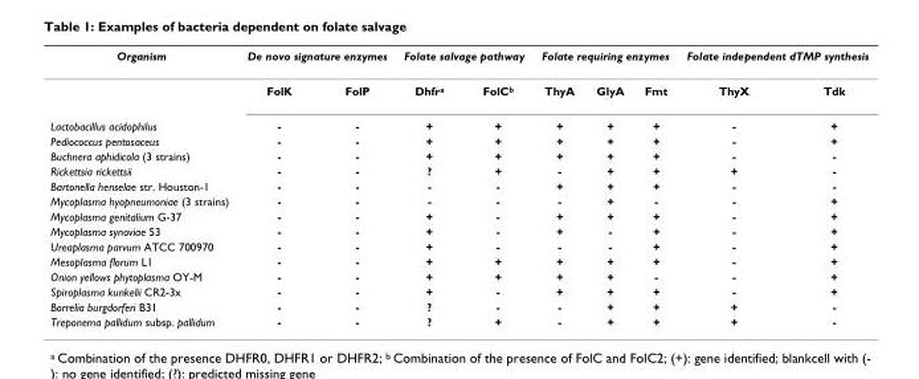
<table><thead><tr><td rowspan="2">Organism</td><td colspan="2">De novo signature enzymes</td><td colspan="2">Folate salvage pathway</td><td colspan="3">Folate requiring enzymes</td><td colspan="2">Folate independent dTMP synthesis</td></tr><tr><td>FolK</td><td>FolP</td><td>Dhfr<sup>a</sup></td><td>FolC<sup>b</sup></td><td>ThyA</td><td>GlyA</td><td>Fmt</td><td>ThyX</td><td>Tdk</td></tr></thead><tbody><tr><td>Lactobacillus acidophilus</td><td>-</td><td>-</td><td>+</td><td>+</td><td>+</td><td>+</td><td>+</td><td>-</td><td>+</td></tr><tr><td>Pediococcus pentosaceus</td><td>-</td><td>-</td><td>+</td><td>+</td><td>+</td><td>+</td><td>+</td><td>-</td><td>+</td></tr><tr><td>Buchnera aphidicola (3 strains)</td><td>-</td><td>-</td><td>+</td><td>+</td><td>+</td><td>+</td><td>+</td><td>-</td><td>-</td></tr><tr><td>Rickettsia rickettsii</td><td>-</td><td>-</td><td>?</td><td>+</td><td>-</td><td>+</td><td>+</td><td>+</td><td>-</td></tr><tr><td>Bartonella henselae str. Houston-1</td><td>-</td><td>-</td><td>-</td><td>-</td><td>+</td><td>+</td><td>+</td><td>-</td><td>-</td></tr><tr><td>Mycoplasma hyopneumoniae (3 strains)</td><td>-</td><td>-</td><td>-</td><td>-</td><td>-</td><td>+</td><td>-</td><td>-</td><td>+</td></tr><tr><td>Mycoplasma genitalium G-37</td><td>-</td><td>-</td><td>+</td><td>-</td><td>+</td><td>+</td><td>+</td><td>-</td><td>+</td></tr><tr><td>Mycoplasma synoviae 53</td><td>-</td><td>-</td><td>+</td><td>-</td><td>+</td><td>-</td><td>+</td><td>-</td><td>+</td></tr><tr><td>Ureaplasma parvum ATCC 700970</td><td>-</td><td>-</td><td>+</td><td>-</td><td>-</td><td>-</td><td>+</td><td>-</td><td>+</td></tr><tr><td>Mesoplasma florum L1</td><td>-</td><td>-</td><td>+</td><td>+</td><td>+</td><td>+</td><td>+</td><td>-</td><td>+</td></tr><tr><td>Onion yellows phytoplasma OY-M</td><td>-</td><td>-</td><td>+</td><td>+</td><td>+</td><td>+</td><td>-</td><td>-</td><td>+</td></tr><tr><td>Spiroplasma kunkelii CR2-3x</td><td>-</td><td>-</td><td>+</td><td>-</td><td>+</td><td>+</td><td>+</td><td>-</td><td>+</td></tr><tr><td>Borrelia burgdorferi B31</td><td>-</td><td>-</td><td>?</td><td>-</td><td>-</td><td>+</td><td>+</td><td>+</td><td>-</td></tr><tr><td>Treponema pallidum subsp. pallidum</td><td>-</td><td>-</td><td>?</td><td>+</td><td>-</td><td>+</td><td>+</td><td>+</td><td>-</td></tr></tbody></table>